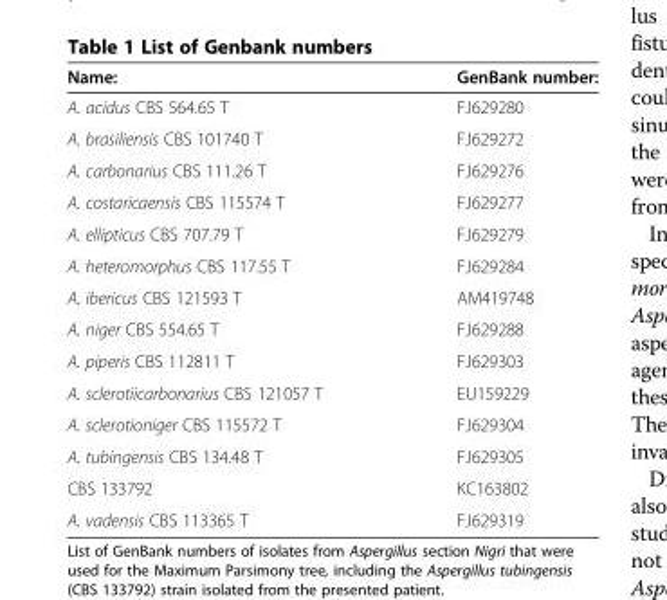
<table><thead><tr><td>Name:</td><td>GenBank number:</td></tr></thead><tbody><tr><td>A. acidus CBS 564.65 T</td><td>FJ629280</td></tr><tr><td>A. brasiliensis CBS 101740 T</td><td>FJ629272</td></tr><tr><td>A. carbonarius CBS 111.26 T</td><td>FJ629276</td></tr><tr><td>A. costaricaensis CBS 115574 T</td><td>FJ629277</td></tr><tr><td>A. ellipticus CBS 707.79 T</td><td>FJ629279</td></tr><tr><td>A. heteromorphus CBS 117.55 T</td><td>FJ629284</td></tr><tr><td>A. ibericus CBS 121593 T</td><td>AM419748</td></tr><tr><td>A. niger CBS 554.65 T</td><td>FJ629288</td></tr><tr><td>A. piperis CBS 112811 T</td><td>FJ629303</td></tr><tr><td>A. sclerotiicarbonarius CBS 121057 T</td><td>EU159229</td></tr><tr><td>A. sclerotioniger CBS 115572 T</td><td>FJ629304</td></tr><tr><td>A. tubingensis CBS 134.48 T</td><td>FJ629305</td></tr><tr><td>CBS 133792</td><td>KC163802</td></tr><tr><td>A. vadensis CBS 113365 T</td><td>FJ629319</td></tr></tbody></table>